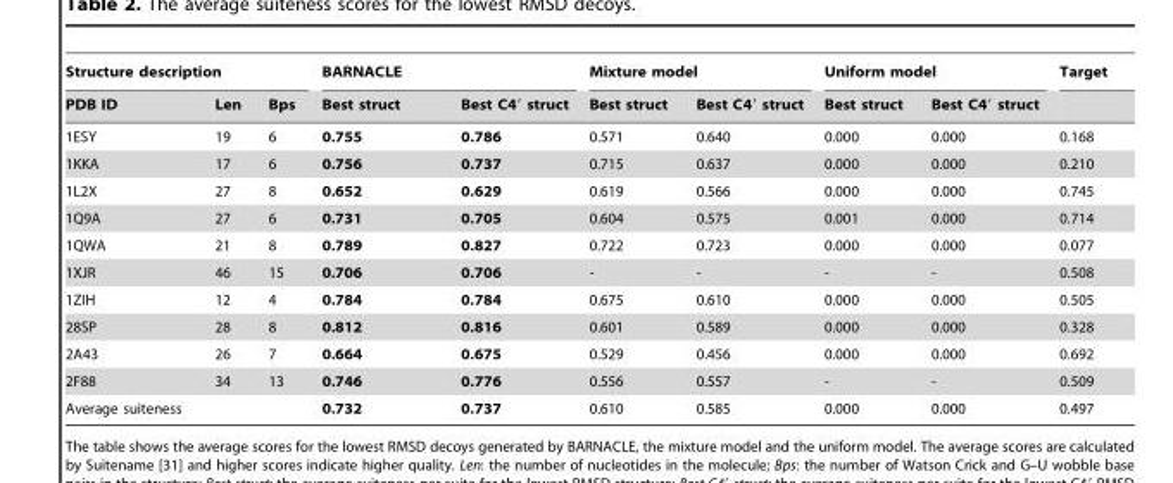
<table><thead><tr><td colspan="3">Structure description</td><td colspan="2">BARNACLE</td><td colspan="2">Mixture model</td><td colspan="2">Uniform model</td><td rowspan="2">Target</td></tr><tr><td>PDB ID</td><td>Len</td><td>Bps</td><td>Best struct</td><td>Best C4′ struct</td><td>Best struct</td><td>Best C4′ struct</td><td>Best struct</td><td>Best C4′ struct</td></tr></thead><tbody><tr><td>1ESY</td><td>19</td><td>6</td><td>0.755</td><td>0.786</td><td>0.571</td><td>0.640</td><td>0.000</td><td>0.000</td><td>0.168</td></tr><tr><td>1KKA</td><td>17</td><td>6</td><td>0.756</td><td>0.737</td><td>0.715</td><td>0.637</td><td>0.000</td><td>0.000</td><td>0.210</td></tr><tr><td>1L2X</td><td>27</td><td>8</td><td>0.652</td><td>0.629</td><td>0.619</td><td>0.566</td><td>0.000</td><td>0.000</td><td>0.745</td></tr><tr><td>1Q9A</td><td>27</td><td>6</td><td>0.731</td><td>0.705</td><td>0.604</td><td>0.575</td><td>0.001</td><td>0.000</td><td>0.714</td></tr><tr><td>1QWA</td><td>21</td><td>8</td><td>0.789</td><td>0.827</td><td>0.722</td><td>0.723</td><td>0.000</td><td>0.000</td><td>0.077</td></tr><tr><td>1XJR</td><td>46</td><td>15</td><td>0.706</td><td>0.706</td><td>-</td><td>-</td><td>-</td><td>-</td><td>0.508</td></tr><tr><td>1ZIH</td><td>12</td><td>4</td><td>0.784</td><td>0.784</td><td>0.675</td><td>0.610</td><td>0.000</td><td>0.000</td><td>0.505</td></tr><tr><td>28SP</td><td>28</td><td>8</td><td>0.812</td><td>0.816</td><td>0.601</td><td>0.589</td><td>0.000</td><td>0.000</td><td>0.328</td></tr><tr><td>2A43</td><td>26</td><td>7</td><td>0.664</td><td>0.675</td><td>0.529</td><td>0.456</td><td>0.000</td><td>0.000</td><td>0.692</td></tr><tr><td>2F88</td><td>34</td><td>13</td><td>0.746</td><td>0.776</td><td>0.556</td><td>0.557</td><td>-</td><td>-</td><td>0.509</td></tr><tr><td colspan="3">Average suiteness</td><td>0.732</td><td>0.737</td><td>0.610</td><td>0.585</td><td>0.000</td><td>0.000</td><td>0.497</td></tr></tbody></table>